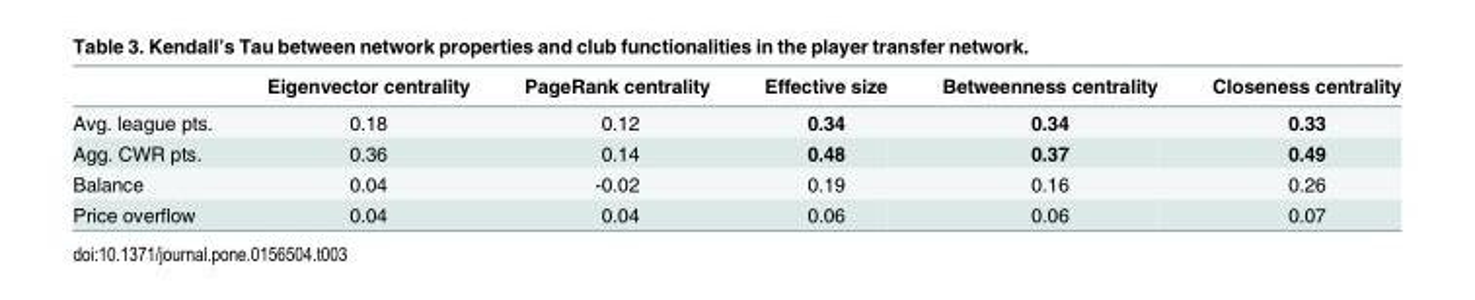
<table><thead><tr><td></td><td>Eigenvector centrality</td><td>PageRank centrality</td><td>Effective size</td><td>Betweenness centrality</td><td>Closeness centrality</td></tr></thead><tbody><tr><td>Avg. league pts.</td><td>0.18</td><td>0.12</td><td>0.34</td><td>0.34</td><td>0.33</td></tr><tr><td>Agg. CWR pts.</td><td>0.36</td><td>0.14</td><td>0.48</td><td>0.37</td><td>0.49</td></tr><tr><td>Balance</td><td>0.04</td><td>-0.02</td><td>0.19</td><td>0.16</td><td>0.26</td></tr><tr><td>Price overflow</td><td>0.04</td><td>0.04</td><td>0.06</td><td>0.06</td><td>0.07</td></tr></tbody></table>